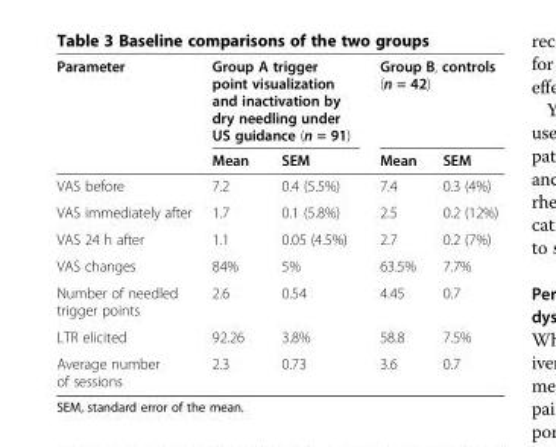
<table><thead><tr><td rowspan="2">Parameter</td><td colspan="2">Group A trigger point visualization and inactivation by dry needling under US guidance (n = 91)</td><td colspan="2">Group B, controls (n = 42)</td></tr><tr><td>Mean</td><td>SEM</td><td>Mean</td><td>SEM</td></tr></thead><tbody><tr><td>VAS before</td><td>7.2</td><td>0.4 (5.5%)</td><td>7.4</td><td>0.3 (4%)</td></tr><tr><td>VAS immediately after</td><td>1.7</td><td>0.1 (5.8%)</td><td>2.5</td><td>0.2 (12%)</td></tr><tr><td>VAS 24 h after</td><td>1.1</td><td>0.05 (4.5%)</td><td>2.7</td><td>0.2 (7%)</td></tr><tr><td>VAS changes</td><td>84%</td><td>5%</td><td>63.5%</td><td>7.7%</td></tr><tr><td>Number of needled trigger points</td><td>2.6</td><td>0.54</td><td>4.45</td><td>0.7</td></tr><tr><td>LTR elicited</td><td>92.26</td><td>3.8%</td><td>58.8</td><td>7.5%</td></tr><tr><td>Average number of sessions</td><td>2.3</td><td>0.73</td><td>3.6</td><td>0.7</td></tr></tbody></table>